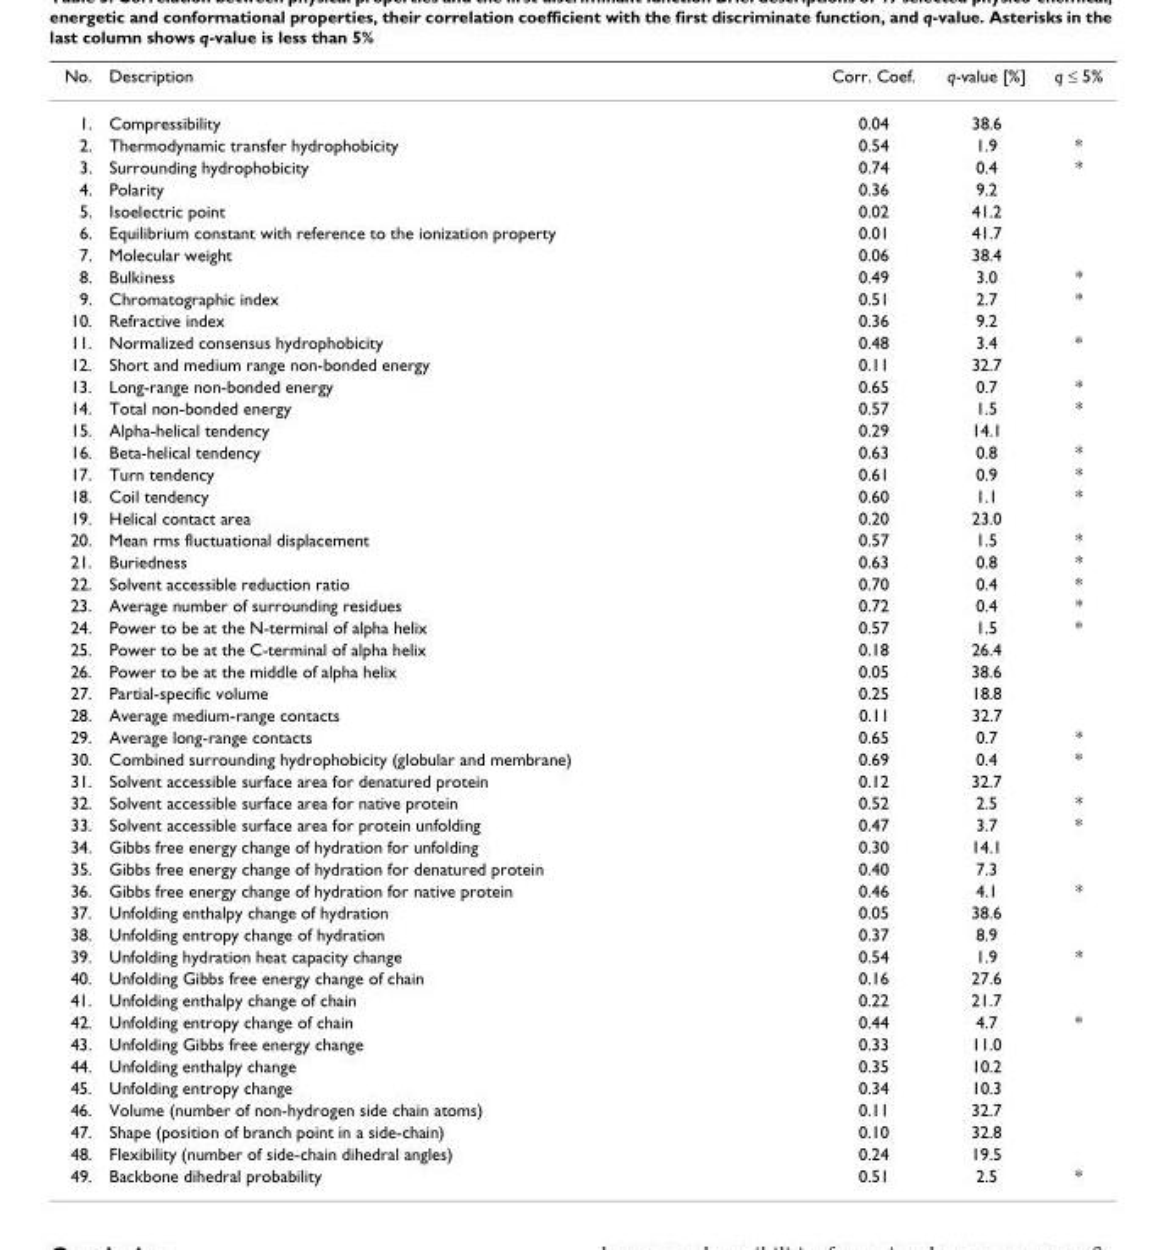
<table><thead><tr><td>No.</td><td>Description</td><td>Corr. Coef.</td><td>q-value [%]</td><td>q ≤ 5%</td></tr></thead><tbody><tr><td>1.</td><td>Compressibility</td><td>0.04</td><td>38.6</td><td></td></tr><tr><td>2.</td><td>Thermodynamic transfer hydrophobicity</td><td>0.54</td><td>1.9</td><td>*</td></tr><tr><td>3.</td><td>Surrounding hydrophobicity</td><td>0.74</td><td>0.4</td><td>*</td></tr><tr><td>4.</td><td>Polarity</td><td>0.36</td><td>9.2</td><td></td></tr><tr><td>5.</td><td>Isoelectric point</td><td>0.02</td><td>41.2</td><td></td></tr><tr><td>6.</td><td>Equilibrium constant with reference to the ionization property</td><td>0.01</td><td>41.7</td><td></td></tr><tr><td>7.</td><td>Molecular weight</td><td>0.06</td><td>38.4</td><td></td></tr><tr><td>8.</td><td>Bulkiness</td><td>0.49</td><td>3.0</td><td>*</td></tr><tr><td>9.</td><td>Chromatographic index</td><td>0.51</td><td>2.7</td><td>*</td></tr><tr><td>10.</td><td>Refractive index</td><td>0.36</td><td>9.2</td><td></td></tr><tr><td>11.</td><td>Normalized consensus hydrophobicity</td><td>0.48</td><td>3.4</td><td>*</td></tr><tr><td>12.</td><td>Short and medium range non-bonded energy</td><td>0.11</td><td>32.7</td><td></td></tr><tr><td>13.</td><td>Long-range non-bonded energy</td><td>0.65</td><td>0.7</td><td>*</td></tr><tr><td>14.</td><td>Total non-bonded energy</td><td>0.57</td><td>1.5</td><td>*</td></tr><tr><td>15.</td><td>Alpha-helical tendency</td><td>0.29</td><td>14.1</td><td></td></tr><tr><td>16.</td><td>Beta-helical tendency</td><td>0.63</td><td>0.8</td><td>*</td></tr><tr><td>17.</td><td>Turn tendency</td><td>0.61</td><td>0.9</td><td>*</td></tr><tr><td>18.</td><td>Coil tendency</td><td>0.60</td><td>1.1</td><td>*</td></tr><tr><td>19.</td><td>Helical contact area</td><td>0.20</td><td>23.0</td><td></td></tr><tr><td>20.</td><td>Mean rms fluctuational displacement</td><td>0.57</td><td>1.5</td><td>*</td></tr><tr><td>21.</td><td>Buriedness</td><td>0.63</td><td>0.8</td><td>*</td></tr><tr><td>22.</td><td>Solvent accessible reduction ratio</td><td>0.70</td><td>0.4</td><td>*</td></tr><tr><td>23.</td><td>Average number of surrounding residues</td><td>0.72</td><td>0.4</td><td>*</td></tr><tr><td>24.</td><td>Power to be at the N-terminal of alpha helix</td><td>0.57</td><td>1.5</td><td>*</td></tr><tr><td>25.</td><td>Power to be at the C-terminal of alpha helix</td><td>0.18</td><td>26.4</td><td></td></tr><tr><td>26.</td><td>Power to be at the middle of alpha helix</td><td>0.05</td><td>38.6</td><td></td></tr><tr><td>27.</td><td>Partial-specific volume</td><td>0.25</td><td>18.8</td><td></td></tr><tr><td>28.</td><td>Average medium-range contacts</td><td>0.11</td><td>32.7</td><td></td></tr><tr><td>29.</td><td>Average long-range contacts</td><td>0.65</td><td>0.7</td><td>*</td></tr><tr><td>30.</td><td>Combined surrounding hydrophobicity (globular and membrane)</td><td>0.69</td><td>0.4</td><td>*</td></tr><tr><td>31.</td><td>Solvent accessible surface area for denatured protein</td><td>0.12</td><td>32.7</td><td></td></tr><tr><td>32.</td><td>Solvent accessible surface area for native protein</td><td>0.52</td><td>2.5</td><td>*</td></tr><tr><td>33.</td><td>Solvent accessible surface area for protein unfolding</td><td>0.47</td><td>3.7</td><td>*</td></tr><tr><td>34.</td><td>Gibbs free energy change of hydration for unfolding</td><td>0.30</td><td>14.1</td><td></td></tr><tr><td>35.</td><td>Gibbs free energy change of hydration for denatured protein</td><td>0.40</td><td>7.3</td><td></td></tr><tr><td>36.</td><td>Gibbs free energy change of hydration for native protein</td><td>0.46</td><td>4.1</td><td>*</td></tr><tr><td>37.</td><td>Unfolding enthalpy change of hydration</td><td>0.05</td><td>38.6</td><td></td></tr><tr><td>38.</td><td>Unfolding entropy change of hydration</td><td>0.37</td><td>8.9</td><td></td></tr><tr><td>39.</td><td>Unfolding hydration heat capacity change</td><td>0.54</td><td>1.9</td><td>*</td></tr><tr><td>40.</td><td>Unfolding Gibbs free energy change of chain</td><td>0.16</td><td>27.6</td><td></td></tr><tr><td>41.</td><td>Unfolding enthalpy change of chain</td><td>0.22</td><td>21.7</td><td></td></tr><tr><td>42.</td><td>Unfolding entropy change of chain</td><td>0.44</td><td>4.7</td><td>*</td></tr><tr><td>43.</td><td>Unfolding Gibbs free energy change</td><td>0.33</td><td>11.0</td><td></td></tr><tr><td>44.</td><td>Unfolding enthalpy change</td><td>0.35</td><td>10.2</td><td></td></tr><tr><td>45.</td><td>Unfolding entropy change</td><td>0.34</td><td>10.3</td><td></td></tr><tr><td>46.</td><td>Volume (number of non-hydrogen side chain atoms)</td><td>0.11</td><td>32.7</td><td></td></tr><tr><td>47.</td><td>Shape (position of branch point in a side-chain)</td><td>0.10</td><td>32.8</td><td></td></tr><tr><td>48.</td><td>Flexibility (number of side-chain dihedral angles)</td><td>0.24</td><td>19.5</td><td></td></tr><tr><td>49.</td><td>Backbone dihedral probability</td><td>0.51</td><td>2.5</td><td>*</td></tr></tbody></table>